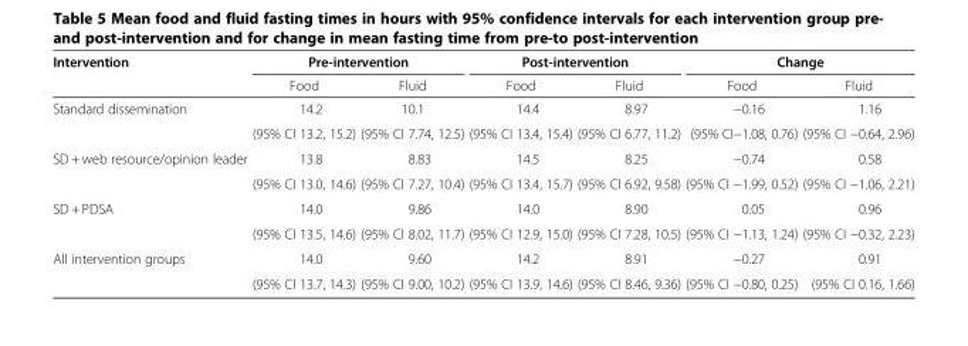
<table><thead><tr><td rowspan="2">Intervention</td><td colspan="2">Pre-intervention</td><td colspan="2">Post-intervention</td><td colspan="2">Change</td></tr><tr><td>Food</td><td>Fluid</td><td>Food</td><td>Fluid</td><td>Food</td><td>Fluid</td></tr></thead><tbody><tr><td rowspan="2">Standard dissemination</td><td>14.2</td><td>10.1</td><td>14.4</td><td>8.97</td><td>−0.16</td><td>1.16</td></tr><tr><td>(95% CI 13.2, 15.2)</td><td>(95% CI 7.74, 12.5)</td><td>(95% CI 13.4, 15.4)</td><td>(95% CI 6.77, 11.2)</td><td>(95% CI−1.08, 0.76)</td><td>(95% CI −0.64, 2.96)</td></tr><tr><td rowspan="2">SD + web resource/opinion leader</td><td>13.8</td><td>8.83</td><td>14.5</td><td>8.25</td><td>−0.74</td><td>0.58</td></tr><tr><td>(95% CI 13.0, 14.6)</td><td>(95% CI 7.27, 10.4)</td><td>(95% CI 13.4, 15.7)</td><td>(95% CI 6.92, 9.58)</td><td>(95% CI −1.99, 0.52)</td><td>(95% CI −1.06, 2.21)</td></tr><tr><td rowspan="2">SD + PDSA</td><td>14.0</td><td>9.86</td><td>14.0</td><td>8.90</td><td>0.05</td><td>0.96</td></tr><tr><td>(95% CI 13.5, 14.6)</td><td>(95% CI 8.02, 11.7)</td><td>(95% CI 12.9, 15.0)</td><td>(95% CI 7.28, 10.5)</td><td>(95% CI −1.13, 1.24)</td><td>(95% CI −0.32, 2.23)</td></tr><tr><td rowspan="2">All intervention groups</td><td>14.0</td><td>9.60</td><td>14.2</td><td>8.91</td><td>−0.27</td><td>0.91</td></tr><tr><td>(95% CI 13.7, 14.3)</td><td>(95% CI 9.00, 10.2)</td><td>(95% CI 13.9, 14.6)</td><td>(95% CI 8.46, 9.36)</td><td>(95% CI −0.80, 0.25)</td><td>(95% CI 0.16, 1.66)</td></tr></tbody></table>